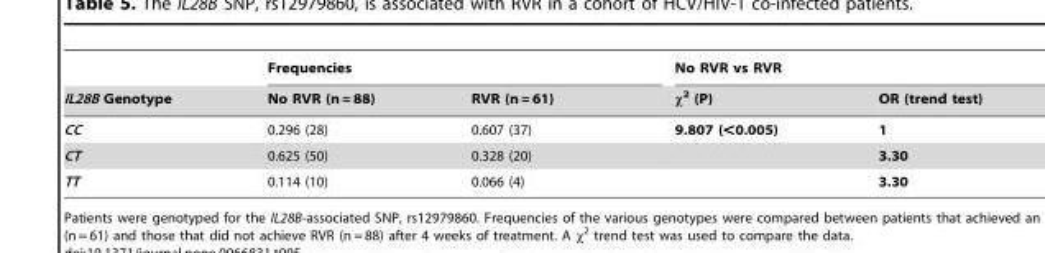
<table><thead><tr><td rowspan="2">IL28B Genotype</td><td colspan="2">Frequencies</td><td colspan="2">No RVR vs RVR</td></tr><tr><td>No RVR (n = 88)</td><td>RVR (n = 61)</td><td>χ<sup>2</sup> (P)</td><td>OR (trend test)</td></tr></thead><tbody><tr><td>CC</td><td>0.296 (28)</td><td>0.607 (37)</td><td>9.807 (&lt;0.005)</td><td>1</td></tr><tr><td>CT</td><td>0.625 (50)</td><td>0.328 (20)</td><td></td><td>3.30</td></tr><tr><td>TT</td><td>0.114 (10)</td><td>0.066 (4)</td><td></td><td>3.30</td></tr></tbody></table>